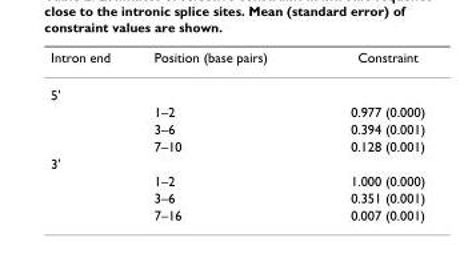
<table><thead><tr><td>Intron end</td><td>Position (base pairs)</td><td>Constraint</td></tr></thead><tbody><tr><td colspan="3">5&#x27;</td></tr><tr><td></td><td>1–2</td><td>0.977 (0.000)</td></tr><tr><td></td><td>3–6</td><td>0.394 (0.001)</td></tr><tr><td></td><td>7–10</td><td>0.128 (0.001)</td></tr><tr><td colspan="3">3&#x27;</td></tr><tr><td></td><td>1–2</td><td>1.000 (0.000)</td></tr><tr><td></td><td>3–6</td><td>0.351 (0.001)</td></tr><tr><td></td><td>7–16</td><td>0.007 (0.001)</td></tr></tbody></table>